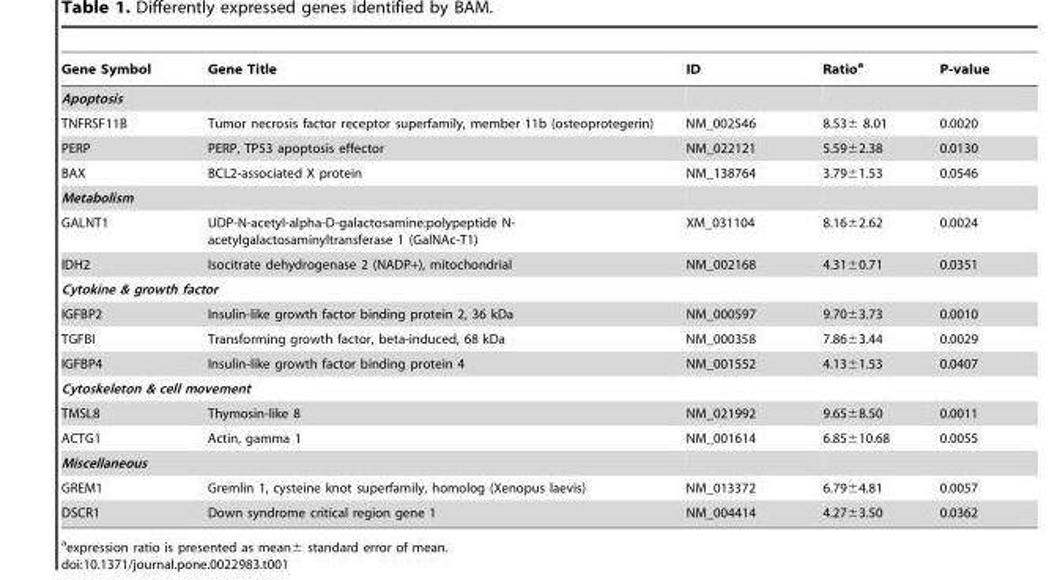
<table><thead><tr><td>Gene Symbol</td><td>Gene Title</td><td>ID</td><td>Ratio<sup>a</sup></td><td>P-value</td></tr></thead><tbody><tr><td colspan="5">Apoptosis</td></tr><tr><td>TNFRSF11B</td><td>Tumor necrosis factor receptor superfamily, member 11b (osteoprotegerin)</td><td>NM_002546</td><td>8.53± 8.01</td><td>0.0020</td></tr><tr><td>PERP</td><td>PERP, TP53 apoptosis effector</td><td>NM_022121</td><td>5.59±2.38</td><td>0.0130</td></tr><tr><td>BAX</td><td>BCL2-associated X protein</td><td>NM_138764</td><td>3.79±1.53</td><td>0.0546</td></tr><tr><td colspan="5">Metabolism</td></tr><tr><td>GALNT1</td><td>UDP-N-acetyl-alpha-D-galactosamine:polypeptide N- acetylgalactosaminyltransferase 1 (GalNAc-T1)</td><td>XM_031104</td><td>8.16±2.62</td><td>0.0024</td></tr><tr><td>IDH2</td><td>Isocitrate dehydrogenase 2 (NADP+), mitochondrial</td><td>NM_002168</td><td>4.31±0.71</td><td>0.0351</td></tr><tr><td colspan="5">Cytokine &amp; growth factor</td></tr><tr><td>IGFBP2</td><td>Insulin-like growth factor binding protein 2, 36 kDa</td><td>NM_000597</td><td>9.70±3.73</td><td>0.0010</td></tr><tr><td>TGFBI</td><td>Transforming growth factor, beta-induced, 68 kDa</td><td>NM_000358</td><td>7.86±3.44</td><td>0.0029</td></tr><tr><td>IGFBP4</td><td>Insulin-like growth factor binding protein 4</td><td>NM_001552</td><td>4.13±1.53</td><td>0.0407</td></tr><tr><td colspan="5">Cytoskeleton &amp; cell movement</td></tr><tr><td>TMSL8</td><td>Thymosin-like 8</td><td>NM_021992</td><td>9.65±8.50</td><td>0.0011</td></tr><tr><td>ACTG1</td><td>Actin, gamma 1</td><td>NM_001614</td><td>6.85±10.68</td><td>0.0055</td></tr><tr><td colspan="5">Miscellaneous</td></tr><tr><td>GREM1</td><td>Gremlin 1, cysteine knot superfamily, homolog (Xenopus laevis)</td><td>NM_013372</td><td>6.79±4.81</td><td>0.0057</td></tr><tr><td>DSCR1</td><td>Down syndrome critical region gene 1</td><td>NM_004414</td><td>4.27±3.50</td><td>0.0362</td></tr></tbody></table>